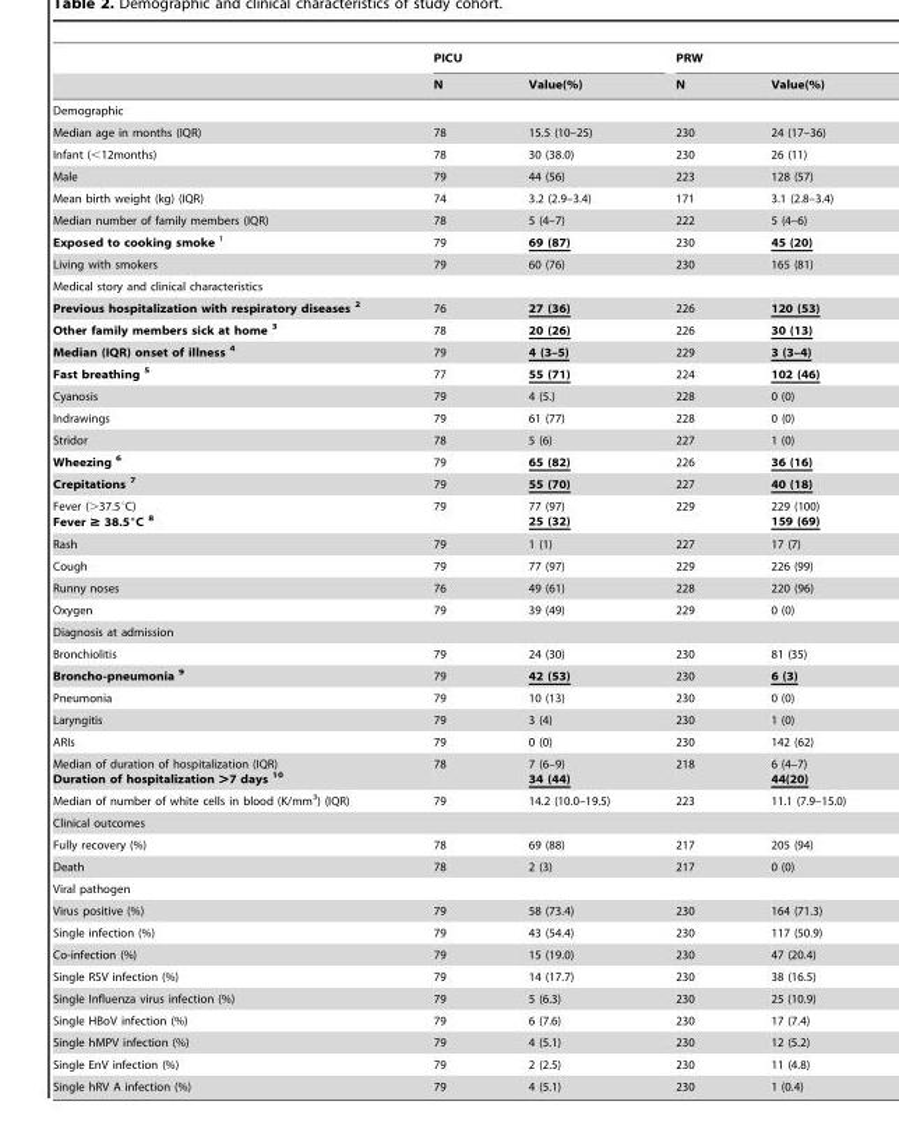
<table><thead><tr><td rowspan="2"></td><td colspan="2">PICU</td><td colspan="2">PRW</td></tr><tr><td>N</td><td>Value(%)</td><td>N</td><td>Value(%)</td></tr></thead><tbody><tr><td colspan="5">Demographic</td></tr><tr><td>Median age in months (IQR)</td><td>78</td><td>15.5 (10–25)</td><td>230</td><td>24 (17–36)</td></tr><tr><td>Infant (&lt;12months)</td><td>78</td><td>30 (38.0)</td><td>230</td><td>26 (11)</td></tr><tr><td>Male</td><td>79</td><td>44 (56)</td><td>223</td><td>128 (57)</td></tr><tr><td>Mean birth weight (kg) (IQR)</td><td>74</td><td>3.2 (2.9–3.4)</td><td>171</td><td>3.1 (2.8–3.4)</td></tr><tr><td>Median number of family members (IQR)</td><td>78</td><td>5 (4–7)</td><td>222</td><td>5 (4–6)</td></tr><tr><td>Exposed to cooking smoke 1</td><td>79</td><td>69 (87)</td><td>230</td><td>45 (20)</td></tr><tr><td>Living with smokers</td><td>79</td><td>60 (76)</td><td>230</td><td>165 (81)</td></tr><tr><td colspan="5">Medical story and clinical characteristics</td></tr><tr><td>Previous hospitalization with respiratory diseases 2</td><td>76</td><td>27 (36)</td><td>226</td><td>120 (53)</td></tr><tr><td>Other family members sick at home 3</td><td>78</td><td>20 (26)</td><td>226</td><td>30 (13)</td></tr><tr><td>Median (IQR) onset of illness 4</td><td>79</td><td>4 (3–5)</td><td>229</td><td>3 (3–4)</td></tr><tr><td>Fast breathing 5</td><td>77</td><td>55 (71)</td><td>224</td><td>102 (46)</td></tr><tr><td>Cyanosis</td><td>79</td><td>4 (5.)</td><td>228</td><td>0 (0)</td></tr><tr><td>Indrawings</td><td>79</td><td>61 (77)</td><td>228</td><td>0 (0)</td></tr><tr><td>Stridor</td><td>78</td><td>5 (6)</td><td>227</td><td>1 (0)</td></tr><tr><td>Wheezing 6</td><td>79</td><td>65 (82)</td><td>226</td><td>36 (16)</td></tr><tr><td>Crepitations 7</td><td>79</td><td>55 (70)</td><td>227</td><td>40 (18)</td></tr><tr><td>Fever (&gt;37.5°C) Fever ≥ 38.5°C 8</td><td>79</td><td>77 (97) 25 (32)</td><td>229</td><td>229 (100) 159 (69)</td></tr><tr><td>Rash</td><td>79</td><td>1 (1)</td><td>227</td><td>17 (7)</td></tr><tr><td>Cough</td><td>79</td><td>77 (97)</td><td>229</td><td>226 (99)</td></tr><tr><td>Runny noses</td><td>76</td><td>49 (61)</td><td>228</td><td>220 (96)</td></tr><tr><td>Oxygen</td><td>79</td><td>39 (49)</td><td>229</td><td>0 (0)</td></tr><tr><td colspan="5">Diagnosis at admission</td></tr><tr><td>Bronchiolitis</td><td>79</td><td>24 (30)</td><td>230</td><td>81 (35)</td></tr><tr><td>Broncho-pneumonia 9</td><td>79</td><td>42 (53)</td><td>230</td><td>6 (3)</td></tr><tr><td>Pneumonia</td><td>79</td><td>10 (13)</td><td>230</td><td>0 (0)</td></tr><tr><td>Laryngitis</td><td>79</td><td>3 (4)</td><td>230</td><td>1 (0)</td></tr><tr><td>ARIs</td><td>79</td><td>0 (0)</td><td>230</td><td>142 (62)</td></tr><tr><td>Median of duration of hospitalization (IQR) Duration of hospitalization &gt;7 days 10</td><td>78</td><td>7 (6–9) 34 (44)</td><td>218</td><td>6 (4–7) 44(20)</td></tr><tr><td>Median of number of white cells in blood (K/mm<sup>3</sup>) (IQR)</td><td>79</td><td>14.2 (10.0–19.5)</td><td>223</td><td>11.1 (7.9–15.0)</td></tr><tr><td colspan="5">Clinical outcomes</td></tr><tr><td>Fully recovery (%)</td><td>78</td><td>69 (88)</td><td>217</td><td>205 (94)</td></tr><tr><td>Death</td><td>78</td><td>2 (3)</td><td>217</td><td>0 (0)</td></tr><tr><td colspan="5">Viral pathogen</td></tr><tr><td>Virus positive (%)</td><td>79</td><td>58 (73.4)</td><td>230</td><td>164 (71.3)</td></tr><tr><td>Single infection (%)</td><td>79</td><td>43 (54.4)</td><td>230</td><td>117 (50.9)</td></tr><tr><td>Co-infection (%)</td><td>79</td><td>15 (19.0)</td><td>230</td><td>47 (20.4)</td></tr><tr><td>Single RSV infection (%)</td><td>79</td><td>14 (17.7)</td><td>230</td><td>38 (16.5)</td></tr><tr><td>Single Influenza virus infection (%)</td><td>79</td><td>5 (6.3)</td><td>230</td><td>25 (10.9)</td></tr><tr><td>Single HBoV infection (%)</td><td>79</td><td>6 (7.6)</td><td>230</td><td>17 (7.4)</td></tr><tr><td>Single hMPV infection (%)</td><td>79</td><td>4 (5.1)</td><td>230</td><td>12 (5.2)</td></tr><tr><td>Single EnV infection (%)</td><td>79</td><td>2 (2.5)</td><td>230</td><td>11 (4.8)</td></tr><tr><td>Single hRV A infection (%)</td><td>79</td><td>4 (5.1)</td><td>230</td><td>1 (0.4)</td></tr></tbody></table>